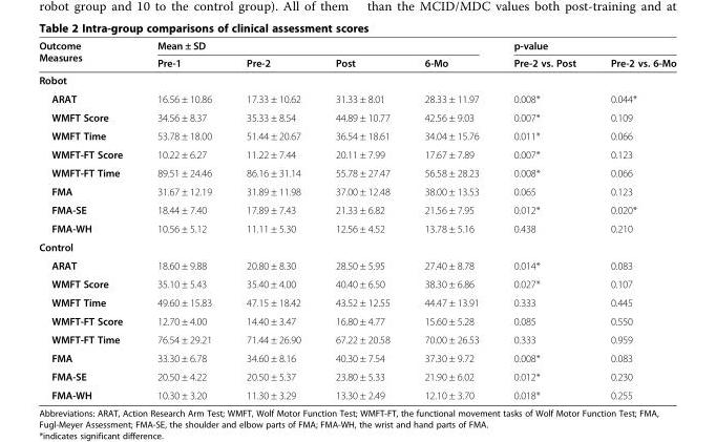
<table><thead><tr><td rowspan="2">Outcome Measures</td><td colspan="4">Mean ± SD</td><td colspan="2">p-value</td></tr><tr><td>Pre-1</td><td>Pre-2</td><td>Post</td><td>6-Mo</td><td>Pre-2 vs. Post</td><td>Pre-2 vs. 6-Mo</td></tr></thead><tbody><tr><td colspan="7">Robot</td></tr><tr><td>ARAT</td><td>16.56 ± 10.86</td><td>17.33 ± 10.62</td><td>31.33 ± 8.01</td><td>28.33 ± 11.97</td><td>0.008*</td><td>0.044*</td></tr><tr><td>WMFT Score</td><td>34.56 ± 8.37</td><td>35.33 ± 8.54</td><td>44.89 ± 10.77</td><td>42.56 ± 9.03</td><td>0.007*</td><td>0.109</td></tr><tr><td>WMFT Time</td><td>53.78 ± 18.00</td><td>51.44 ± 20.67</td><td>36.54 ± 18.61</td><td>34.04 ± 15.76</td><td>0.011*</td><td>0.066</td></tr><tr><td>WMFT-FT Score</td><td>10.22 ± 6.27</td><td>11.22 ± 7.44</td><td>20.11 ± 7.99</td><td>17.67 ± 7.89</td><td>0.007*</td><td>0.123</td></tr><tr><td>WMFT-FT Time</td><td>89.51 ± 24.46</td><td>86.16 ± 31.14</td><td>55.78 ± 27.47</td><td>56.58 ± 28.23</td><td>0.008*</td><td>0.066</td></tr><tr><td>FMA</td><td>31.67 ± 12.19</td><td>31.89 ± 11.98</td><td>37.00 ± 12.48</td><td>38.00 ± 13.53</td><td>0.065</td><td>0.123</td></tr><tr><td>FMA-SE</td><td>18.44 ± 7.40</td><td>17.89 ± 7.43</td><td>21.33 ± 6.82</td><td>21.56 ± 7.95</td><td>0.012*</td><td>0.020*</td></tr><tr><td>FMA-WH</td><td>10.56 ± 5.12</td><td>11.11 ± 5.30</td><td>12.56 ± 4.52</td><td>13.78 ± 5.16</td><td>0.438</td><td>0.210</td></tr><tr><td colspan="7">Control</td></tr><tr><td>ARAT</td><td>18.60 ± 9.88</td><td>20.80 ± 8.30</td><td>28.50 ± 5.95</td><td>27.40 ± 8.78</td><td>0.014*</td><td>0.083</td></tr><tr><td>WMFT Score</td><td>35.10 ± 5.43</td><td>35.40 ± 4.00</td><td>40.40 ± 6.50</td><td>38.30 ± 6.86</td><td>0.027*</td><td>0.107</td></tr><tr><td>WMFT Time</td><td>49.60 ± 15.83</td><td>47.15 ± 18.42</td><td>43.52 ± 12.55</td><td>44.47 ± 13.91</td><td>0.333</td><td>0.445</td></tr><tr><td>WMFT-FT Score</td><td>12.70 ± 4.00</td><td>14.40 ± 3.47</td><td>16.80 ± 4.77</td><td>15.60 ± 5.28</td><td>0.085</td><td>0.550</td></tr><tr><td>WMFT-FT Time</td><td>76.54 ± 29.21</td><td>71.44 ± 26.90</td><td>67.22 ± 20.58</td><td>70.00 ± 26.53</td><td>0.333</td><td>0.959</td></tr><tr><td>FMA</td><td>33.30 ± 6.78</td><td>34.60 ± 8.16</td><td>40.30 ± 7.54</td><td>37.30 ± 9.72</td><td>0.008*</td><td>0.083</td></tr><tr><td>FMA-SE</td><td>20.50 ± 4.22</td><td>20.50 ± 5.37</td><td>23.80 ± 5.33</td><td>21.90 ± 6.02</td><td>0.012*</td><td>0.230</td></tr><tr><td>FMA-WH</td><td>10.30 ± 3.20</td><td>11.30 ± 3.29</td><td>13.30 ± 2.49</td><td>12.10 ± 3.70</td><td>0.018*</td><td>0.255</td></tr></tbody></table>